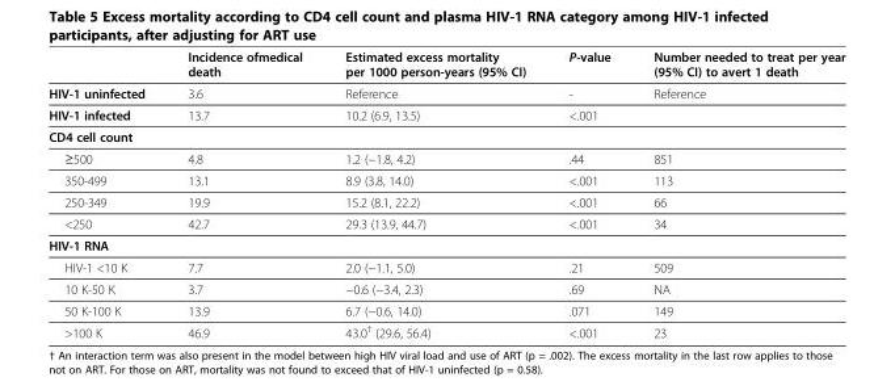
<table><thead><tr><td></td><td>Incidence ofmedical death</td><td>Estimated excess mortality per 1000 person-years (95% CI)</td><td>P-value</td><td>Number needed to treat per year (95% CI) to avert 1 death</td></tr></thead><tbody><tr><td>HIV-1 uninfected</td><td>3.6</td><td>Reference</td><td>-</td><td>Reference</td></tr><tr><td>HIV-1 infected</td><td>13.7</td><td>10.2 (6.9, 13.5)</td><td>&lt;.001</td><td></td></tr><tr><td colspan="5">CD4 cell count</td></tr><tr><td>≥500</td><td>4.8</td><td>1.2 (−1.8, 4.2)</td><td>.44</td><td>851</td></tr><tr><td>350-499</td><td>13.1</td><td>8.9 (3.8, 14.0)</td><td>&lt;.001</td><td>113</td></tr><tr><td>250-349</td><td>19.9</td><td>15.2 (8.1, 22.2)</td><td>&lt;.001</td><td>66</td></tr><tr><td>&lt;250</td><td>42.7</td><td>29.3 (13.9, 44.7)</td><td>&lt;.001</td><td>34</td></tr><tr><td colspan="5">HIV-1 RNA</td></tr><tr><td>HIV-1 &lt;10 K</td><td>7.7</td><td>2.0 (−1.1, 5.0)</td><td>.21</td><td>509</td></tr><tr><td>10 K-50 K</td><td>3.7</td><td>−0.6 (−3.4, 2.3)</td><td>.69</td><td>NA</td></tr><tr><td>50 K-100 K</td><td>13.9</td><td>6.7 (−0.6, 14.0)</td><td>.071</td><td>149</td></tr><tr><td>&gt;100 K</td><td>46.9</td><td>43.0<sup>†</sup> (29.6, 56.4)</td><td>&lt;.001</td><td>23</td></tr></tbody></table>